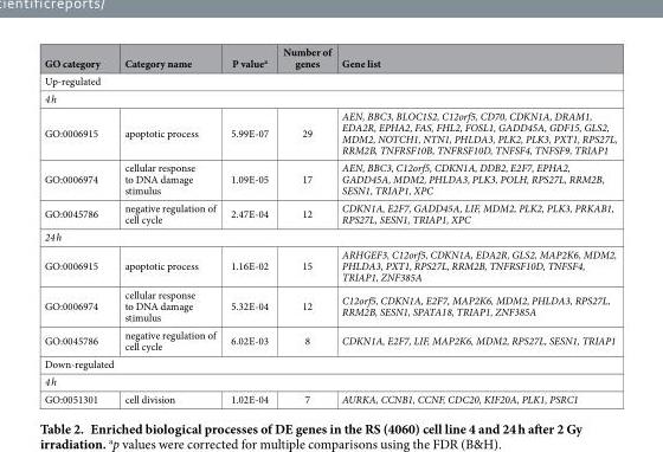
<table><thead><tr><td>GO category</td><td>Category name</td><td>P value<sup>a</sup></td><td>Number of genes</td><td>Gene list</td></tr></thead><tbody><tr><td colspan="5">Up-regulated</td></tr><tr><td colspan="5">4 h</td></tr><tr><td>GO:0006915</td><td>apoptotic process</td><td>5.99E-07</td><td>29</td><td>AEN, BBC3, BLOC1S2, C12orf5, CD70, CDKN1A, DRAM1, EDA2R, EPHA2, FAS, FHL2, FOSL1, GADD45A, GDF15, GLS2, MDM2, NOTCH1, NTN1, PHLDA3, PLK2, PLK3, PXT1, RPS27L, RRM2B, TNFRSF10B, TNFRSF10D, TNFSF4, TNFSF9, TRIAP1</td></tr><tr><td>GO:0006974</td><td>cellular response to DNA damage stimulus</td><td>1.09E-05</td><td>17</td><td>AEN, BBC3, C12orf5, CDKN1A, DDB2, E2F7, EPHA2, GADD45A, MDM2, PHLDA3, PLK3, POLH, RPS27L, RRM2B, SESN1, TRIAP1, XPC</td></tr><tr><td>GO:0045786</td><td>negative regulation of cell cycle</td><td>2.47E-04</td><td>12</td><td>CDKN1A, E2F7, GADD45A, LIF, MDM2, PLK2, PLK3, PRKAB1, RPS27L, SESN1, TRIAP1, XPC</td></tr><tr><td colspan="5">24 h</td></tr><tr><td>GO:0006915</td><td>apoptotic process</td><td>1.16E-02</td><td>15</td><td>ARHGEF3, C12orf5, CDKN1A, EDA2R, GLS2, MAP2K6, MDM2, PHLDA3, PXT1, RPS27L, RRM2B, TNFRSF10D, TNFSF4, TRIAP1, ZNF385A</td></tr><tr><td>GO:0006974</td><td>cellular response to DNA damage stimulus</td><td>5.32E-04</td><td>12</td><td>C12orf5, CDKN1A, E2F7, MAP2K6, MDM2, PHLDA3, RPS27L, RRM2B, SESN1, SPATA18, TRIAP1, ZNF385A</td></tr><tr><td>GO:0045786</td><td>negative regulation of cell cycle</td><td>6.02E-03</td><td>8</td><td>CDKN1A, E2F7, LIF, MAP2K6, MDM2, RPS27L, SESN1, TRIAP1</td></tr><tr><td colspan="5">Down-regulated</td></tr><tr><td colspan="5">4 h</td></tr><tr><td>GO:0051301</td><td>cell division</td><td>1.02E-04</td><td>7</td><td>AURKA, CCNB1, CCNF, CDC20, KIF20A, PLK1, PSRC1</td></tr></tbody></table>